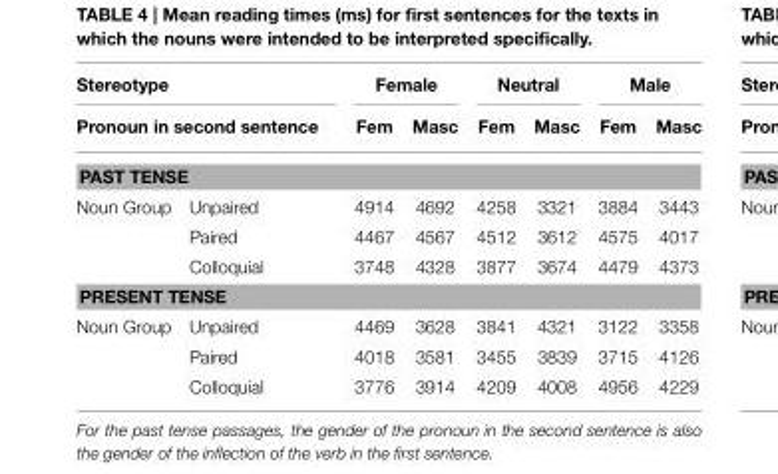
<table><thead><tr><td rowspan="2" colspan="2">Stereotype Pronoun in second sentence</td><td colspan="2">Female</td><td colspan="2">Neutral</td><td colspan="2">Male</td></tr><tr><td>Fem</td><td>Masc</td><td>Fem</td><td>Masc</td><td>Fem</td><td>Masc</td></tr><tr><td colspan="8">PAST TENSE</td></tr><tr><td>Noun Group</td><td>Unpaired</td><td>4914</td><td>4692</td><td>4258</td><td>3321</td><td>3884</td><td>3443</td></tr></thead><tbody><tr><td></td><td>Paired</td><td>4467</td><td>4567</td><td>4512</td><td>3612</td><td>4575</td><td>4017</td></tr><tr><td></td><td>Colloquial</td><td>3748</td><td>4328</td><td>3877</td><td>3674</td><td>4479</td><td>4373</td></tr><tr><td colspan="8">PRESENT TENSE</td></tr><tr><td rowspan="3">Noun Group</td><td>Unpaired</td><td>4469</td><td>3628</td><td>3841</td><td>4321</td><td>3122</td><td>3358</td></tr><tr><td>Paired</td><td>4018</td><td>3581</td><td>3455</td><td>3839</td><td>3715</td><td>4126</td></tr><tr><td>Colloquial</td><td>3776</td><td>3914</td><td>4209</td><td>4008</td><td>4956</td><td>4229</td></tr></tbody></table>